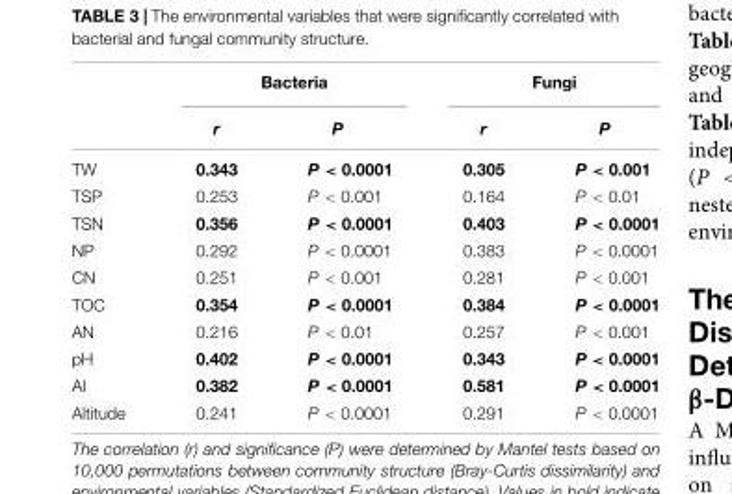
<table><thead><tr><td rowspan="2"></td><td colspan="2">Bacteria</td><td colspan="2">Fungi</td></tr><tr><td>r</td><td>P</td><td>r</td><td>P</td></tr></thead><tbody><tr><td>TW</td><td>0.343</td><td>P &lt; 0.0001</td><td>0.305</td><td>P &lt; 0.001</td></tr><tr><td>TSP</td><td>0.253</td><td>P &lt; 0.001</td><td>0.164</td><td>P &lt; 0.01</td></tr><tr><td>TSN</td><td>0.356</td><td>P &lt; 0.0001</td><td>0.403</td><td>P &lt; 0.0001</td></tr><tr><td>NP</td><td>0.292</td><td>P &lt; 0.0001</td><td>0.383</td><td>P &lt; 0.0001</td></tr><tr><td>CN</td><td>0.251</td><td>P &lt; 0.001</td><td>0.281</td><td>P &lt; 0.001</td></tr><tr><td>TOC</td><td>0.354</td><td>P &lt; 0.0001</td><td>0.384</td><td>P &lt; 0.0001</td></tr><tr><td>AN</td><td>0.216</td><td>P &lt; 0.01</td><td>0.257</td><td>P &lt; 0.001</td></tr><tr><td>pH</td><td>0.402</td><td>P &lt; 0.0001</td><td>0.343</td><td>P &lt; 0.0001</td></tr><tr><td>AI</td><td>0.382</td><td>P &lt; 0.0001</td><td>0.581</td><td>P &lt; 0.0001</td></tr><tr><td>Altitude</td><td>0.241</td><td>P &lt; 0.0001</td><td>0.291</td><td>P &lt; 0.0001</td></tr></tbody></table>